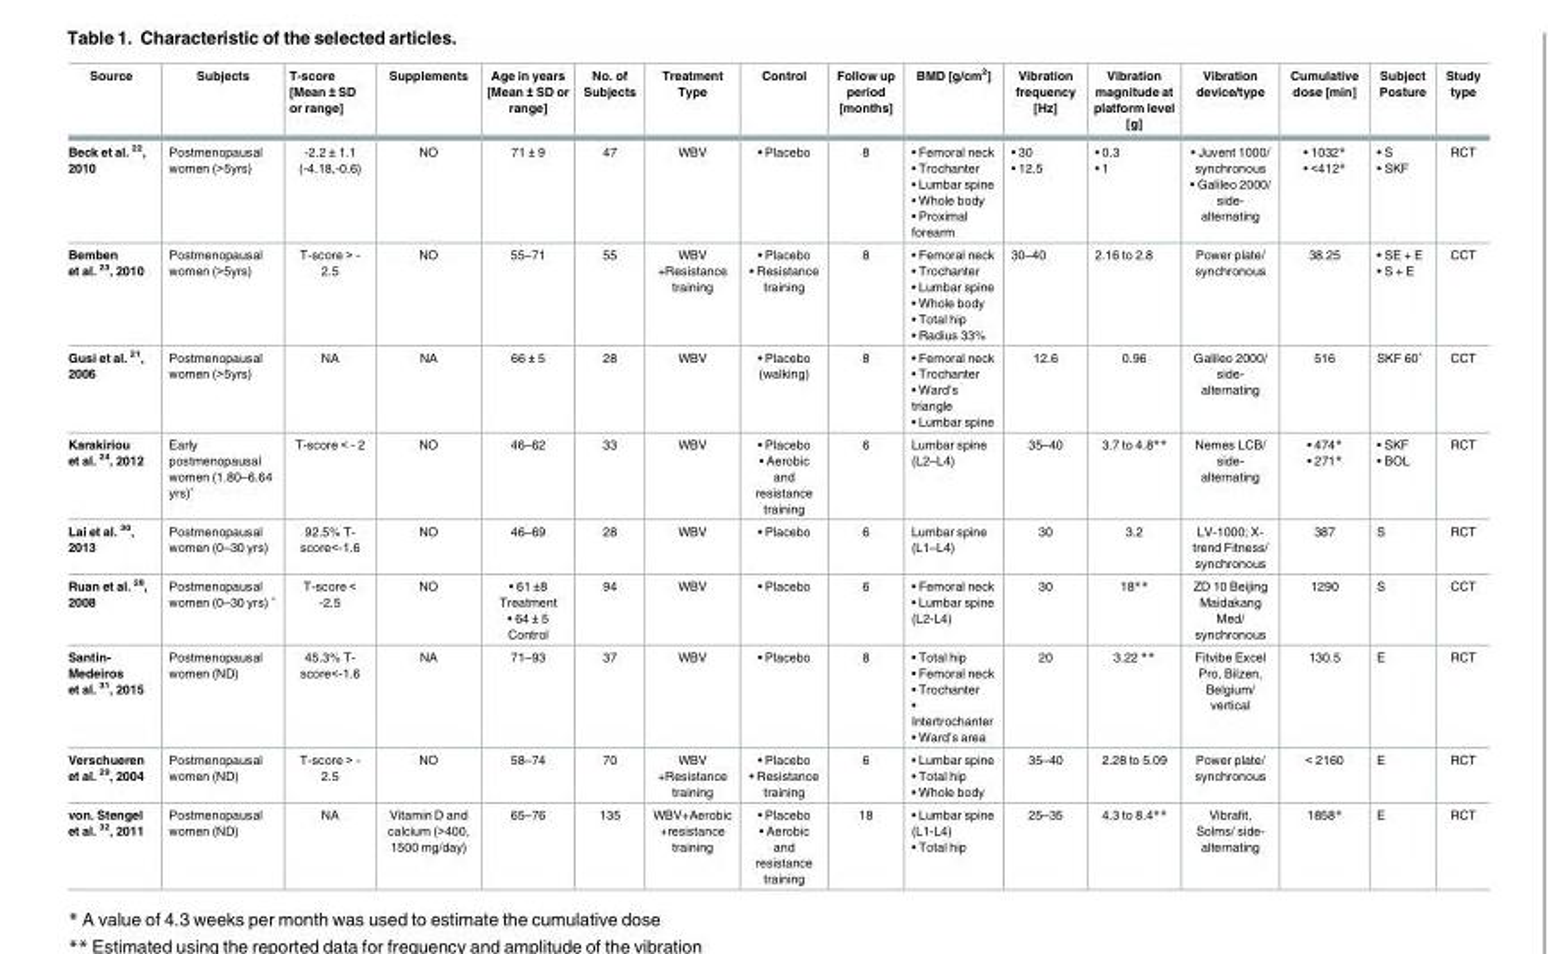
<table><thead><tr><td>Source</td><td>Subjects</td><td>T-score [Mean ± SD or range]</td><td>Supplements</td><td>Age in years [Mean ± SD or range]</td><td>No. of Subjects</td><td>Treatment Type</td><td>Control</td><td>Follow up period [months]</td><td>BMD [g/cm<sup>2</sup>]</td><td>Vibration frequency [Hz]</td><td>Vibration magnitude at platform level [g]</td><td>Vibration device/type</td><td>Cumulative dose [min]</td><td>Subject Posture</td><td>Study type</td></tr></thead><tbody><tr><td>Beck et al. <sup>22</sup>, 2010</td><td>Postmenopausal women (&gt;5yrs)</td><td>-2.2 ± 1.1 (-4.18,-0.6)</td><td>NO</td><td>71 ± 9</td><td>47</td><td>WBV</td><td>• Placebo</td><td>8</td><td>• Femoral neck • Trochanter • Lumbar spine • Whole body • Proximal forearm</td><td>• 30 • 12.5</td><td>• 0.3 • 1</td><td>• Juvent 1000/ synchronous • Galileo 2000/ side- alternating</td><td>• 1032* • &lt;412*</td><td>• S • SKF</td><td>RCT</td></tr><tr><td>Bemben et al. <sup>23</sup>, 2010</td><td>Postmenopausal women (&gt;5yrs)</td><td>T-score &gt; - 2.5</td><td>NO</td><td>55–71</td><td>55</td><td>WBV +Resistance training</td><td>• Placebo • Resistance training</td><td>8</td><td>• Femoral neck • Trochanter • Lumbar spine • Whole body • Total hip • Radius 33%</td><td>30–40</td><td>2.16 to 2.8</td><td>Power plate/ synchronous</td><td>38.25</td><td>• SE + E • S + E</td><td>CCT</td></tr><tr><td>Gusi et al. <sup>21</sup>, 2006</td><td>Postmenopausal women (&gt;5yrs)</td><td>NA</td><td>NA</td><td>66 ± 5</td><td>28</td><td>WBV</td><td>• Placebo (walking)</td><td>8</td><td>• Femoral neck • Trochanter • Ward’s triangle • Lumbar spine</td><td>12.6</td><td>0.96</td><td>Galileo 2000/ side- alternating</td><td>516</td><td>SKF 60˚</td><td>CCT</td></tr><tr><td>Karakiriou et al. <sup>24</sup>, 2012</td><td>Early postmenopausal women (1.80–6.64 yrs)ˆ</td><td>T-score &lt; - 2</td><td>NO</td><td>46–62</td><td>33</td><td>WBV</td><td>• Placebo • Aerobic and resistance training</td><td>6</td><td>Lumbar spine (L2–L4)</td><td>35–40</td><td>3.7 to 4.8**</td><td>Nemes LCB/ side- alternating</td><td>• 474* • 271*</td><td>• SKF • BOL</td><td>RCT</td></tr><tr><td>Lai et al. <sup>30</sup>, 2013</td><td>Postmenopausal women (0–30 yrs)</td><td>92.5% T- score&lt;-1.6</td><td>NO</td><td>46–69</td><td>28</td><td>WBV</td><td>• Placebo</td><td>6</td><td>Lumbar spine (L1–L4)</td><td>30</td><td>3.2</td><td>LV-1000; X- trend Fitness/ synchronous</td><td>387</td><td>S</td><td>RCT</td></tr><tr><td>Ruan et al. <sup>28</sup>, 2008</td><td>Postmenopausal women (0–30 yrs) ˆ</td><td>T-score &lt; -2.5</td><td>NO</td><td>• 61 ±8 Treatment • 64 ± 5 Control</td><td>94</td><td>WBV</td><td>• Placebo</td><td>6</td><td>• Femoral neck • Lumbar spine (L2-L4)</td><td>30</td><td>18**</td><td>ZD 10 Beijing Maidakang Med/ synchronous</td><td>1290</td><td>S</td><td>CCT</td></tr><tr><td>Santin- Medeiros et al. <sup>31</sup>, 2015</td><td>Postmenopausal women (ND)</td><td>45.3% T- score&lt;-1.6</td><td>NA</td><td>71–93</td><td>37</td><td>WBV</td><td>• Placebo</td><td>8</td><td>• Total hip • Femoral neck • Trochanter • Intertrochanter • Ward’s area</td><td>20</td><td>3.22 **</td><td>Fitvibe Excel Pro, Bilzen, Belgium/ vertical</td><td>130.5</td><td>E</td><td>RCT</td></tr><tr><td>Verschueren et al. <sup>29</sup>, 2004</td><td>Postmenopausal women (ND)</td><td>T-score &gt; - 2.5</td><td>NO</td><td>58–74</td><td>70</td><td>WBV +Resistance training</td><td>• Placebo • Resistance training</td><td>6</td><td>• Lumbar spine • Total hip • Whole body</td><td>35–40</td><td>2.28 to 5.09</td><td>Power plate/ synchronous</td><td>&lt; 2160</td><td>E</td><td>RCT</td></tr><tr><td>von. Stengel et al. <sup>32</sup>, 2011</td><td>Postmenopausal women (ND)</td><td>NA</td><td>Vitamin D and calcium (&gt;400, 1500 mg/day)</td><td>65–76</td><td>135</td><td>WBV+Aerobic +resistance training</td><td>• Placebo • Aerobic and resistance training</td><td>18</td><td>• Lumbar spine (L1-L4) • Total hip</td><td>25–35</td><td>4.3 to 8.4**</td><td>Vibrafit, Solms/ side- alternating</td><td>1858*</td><td>E</td><td>RCT</td></tr></tbody></table>